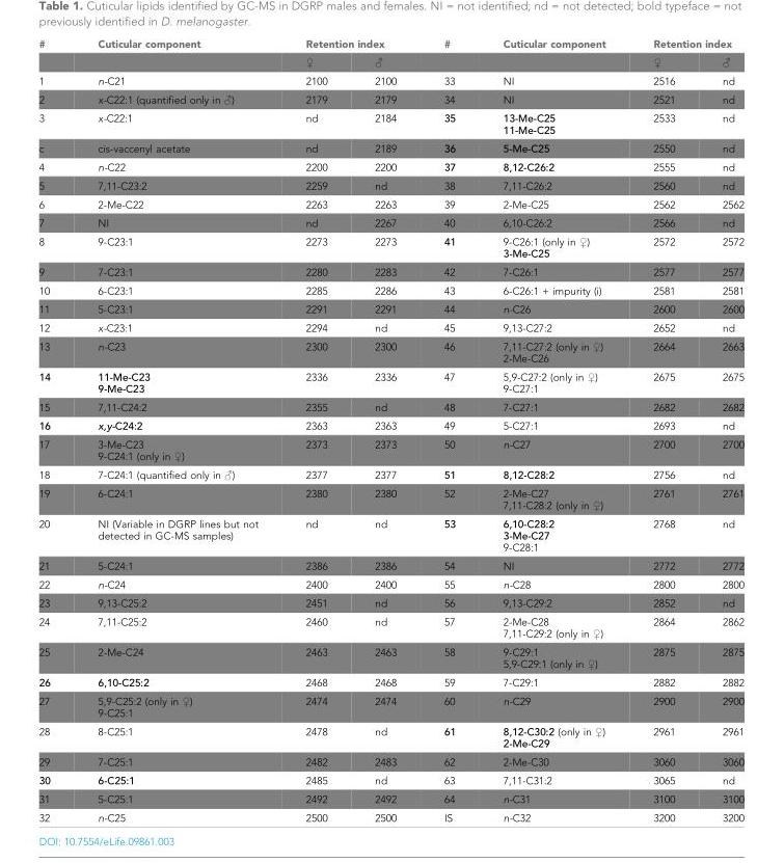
<table><thead><tr><td rowspan="2">#</td><td rowspan="2">Cuticular component</td><td colspan="2">Retention index</td><td rowspan="2">#</td><td rowspan="2">Cuticular component</td><td colspan="2">Retention index</td></tr><tr><td>♀</td><td>♂</td><td>♀</td><td>♂</td></tr></thead><tbody><tr><td>1</td><td>n-C21</td><td>2100</td><td>2100</td><td>33</td><td>NI</td><td>2516</td><td>nd</td></tr><tr><td>2</td><td>x-C22:1 (quantified only in ♂)</td><td>2179</td><td>2179</td><td>34</td><td>NI</td><td>2521</td><td>nd</td></tr><tr><td>3</td><td>x-C22:1</td><td>nd</td><td>2184</td><td>35</td><td>13-Me-C25 11-Me-C25</td><td>2533</td><td>nd</td></tr><tr><td>c</td><td>cis-vaccenyl acetate</td><td>nd</td><td>2189</td><td>36</td><td>5-Me-C25</td><td>2550</td><td>nd</td></tr><tr><td>4</td><td>n-C22</td><td>2200</td><td>2200</td><td>37</td><td>8,12-C26:2</td><td>2555</td><td>nd</td></tr><tr><td>5</td><td>7,11-C23:2</td><td>2259</td><td>nd</td><td>38</td><td>7,11-C26:2</td><td>2560</td><td>nd</td></tr><tr><td>6</td><td>2-Me-C22</td><td>2263</td><td>2263</td><td>39</td><td>2-Me-C25</td><td>2562</td><td>2562</td></tr><tr><td>7</td><td>NI</td><td>nd</td><td>2267</td><td>40</td><td>6,10-C26:2</td><td>2566</td><td>nd</td></tr><tr><td>8</td><td>9-C23:1</td><td>2273</td><td>2273</td><td>41</td><td>9-C26:1 (only in ♀) 3-Me-C25</td><td>2572</td><td>2572</td></tr><tr><td>9</td><td>7-C23:1</td><td>2280</td><td>2283</td><td>42</td><td>7-C26:1</td><td>2577</td><td>2577</td></tr><tr><td>10</td><td>6-C23:1</td><td>2285</td><td>2286</td><td>43</td><td>6-C26:1 + impurity (i)</td><td>2581</td><td>2581</td></tr><tr><td>11</td><td>5-C23:1</td><td>2291</td><td>2291</td><td>44</td><td>n-C26</td><td>2600</td><td>2600</td></tr><tr><td>12</td><td>x-C23:1</td><td>2294</td><td>nd</td><td>45</td><td>9,13-C27:2</td><td>2652</td><td>nd</td></tr><tr><td>13</td><td>n-C23</td><td>2300</td><td>2300</td><td>46</td><td>7,11-C27:2 (only in ♀) 2-Me-C26</td><td>2664</td><td>2663</td></tr><tr><td>14</td><td>11-Me-C23 9-Me-C23</td><td>2336</td><td>2336</td><td>47</td><td>5,9-C27:2 (only in ♀) 9-C27:1</td><td>2675</td><td>2675</td></tr><tr><td>15</td><td>7,11-C24:2</td><td>2355</td><td>nd</td><td>48</td><td>7-C27:1</td><td>2682</td><td>2682</td></tr><tr><td>16</td><td>x,y-C24:2</td><td>2363</td><td>2363</td><td>49</td><td>5-C27:1</td><td>2693</td><td>nd</td></tr><tr><td>17</td><td>3-Me-C23 9-C24:1 (only in ♀)</td><td>2373</td><td>2373</td><td>50</td><td>n-C27</td><td>2700</td><td>2700</td></tr><tr><td>18</td><td>7-C24:1 (quantified only in ♂)</td><td>2377</td><td>2377</td><td>51</td><td>8,12-C28:2</td><td>2756</td><td>nd</td></tr><tr><td>19</td><td>6-C24:1</td><td>2380</td><td>2380</td><td>52</td><td>2-Me-C27 7,11-C28:2 (only in ♀)</td><td>2761</td><td>2761</td></tr><tr><td>20</td><td>NI (Variable in DGRP lines but not detected in GC-MS samples)</td><td>nd</td><td>nd</td><td>53</td><td>6,10-C28:2 3-Me-C27 9-C28:1</td><td>2768</td><td>nd</td></tr><tr><td>21</td><td>5-C24:1</td><td>2386</td><td>2386</td><td>54</td><td>NI</td><td>2772</td><td>2772</td></tr><tr><td>22</td><td>n-C24</td><td>2400</td><td>2400</td><td>55</td><td>n-C28</td><td>2800</td><td>2800</td></tr><tr><td>23</td><td>9,13-C25:2</td><td>2451</td><td>nd</td><td>56</td><td>9,13-C29:2</td><td>2852</td><td>nd</td></tr><tr><td>24</td><td>7,11-C25:2</td><td>2460</td><td>nd</td><td>57</td><td>2-Me-C28 7,11-C29:2 (only in ♀)</td><td>2864</td><td>2862</td></tr><tr><td>25</td><td>2-Me-C24</td><td>2463</td><td>2463</td><td>58</td><td>9-C29:1 5,9-C29:1 (only in ♀)</td><td>2875</td><td>2875</td></tr><tr><td>26</td><td>6,10-C25:2</td><td>2468</td><td>2468</td><td>59</td><td>7-C29:1</td><td>2882</td><td>2882</td></tr><tr><td>27</td><td>5,9-C25:2 (only in ♀) 9-C25:1</td><td>2474</td><td>2474</td><td>60</td><td>n-C29</td><td>2900</td><td>2900</td></tr><tr><td>28</td><td>8-C25:1</td><td>2478</td><td>nd</td><td>61</td><td>8,12-C30:2 (only in ♀) 2-Me-C29</td><td>2961</td><td>2961</td></tr><tr><td>29</td><td>7-C25:1</td><td>2482</td><td>2483</td><td>62</td><td>2-Me-C30</td><td>3060</td><td>3060</td></tr><tr><td>30</td><td>6-C25:1</td><td>2485</td><td>nd</td><td>63</td><td>7,11-C31:2</td><td>3065</td><td>nd</td></tr><tr><td>31</td><td>5-C25:1</td><td>2492</td><td>2492</td><td>64</td><td>n-C31</td><td>3100</td><td>3100</td></tr><tr><td>32</td><td>n-C25</td><td>2500</td><td>2500</td><td>IS</td><td>n-C32</td><td>3200</td><td>3200</td></tr></tbody></table>